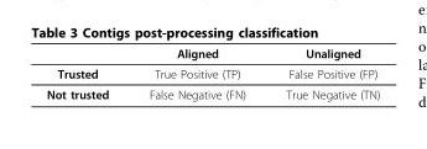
<table><thead><tr><td></td><td>Aligned</td><td>Unaligned</td></tr></thead><tbody><tr><td>Trusted</td><td>True Positive (TP)</td><td>False Positive (FP)</td></tr><tr><td>Not trusted</td><td>False Negative (FN)</td><td>True Negative (TN)</td></tr></tbody></table>